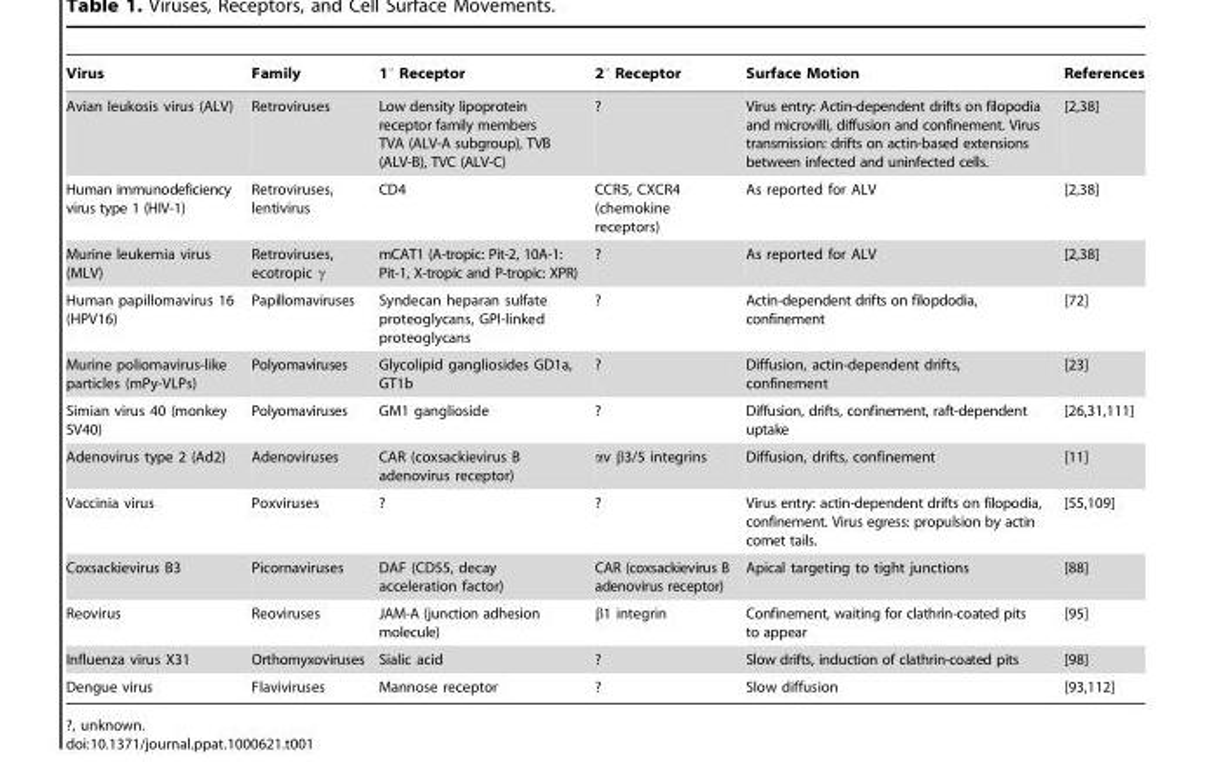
<table><thead><tr><td>Virus</td><td>Family</td><td>1° Receptor</td><td>2° Receptor</td><td>Surface Motion</td><td>References</td></tr></thead><tbody><tr><td>Avian leukosis virus (ALV)</td><td>Retroviruses</td><td>Low density lipoprotein receptor family members TVA (ALV-A subgroup), TVB (ALV-B), TVC (ALV-C)</td><td>?</td><td>Virus entry: Actin-dependent drifts on filopodia and microvilli, diffusion and confinement. Virus transmission: drifts on actin-based extensions between infected and uninfected cells.</td><td>[2,38]</td></tr><tr><td>Human immunodeficiency virus type 1 (HIV-1)</td><td>Retroviruses, lentivirus</td><td>CD4</td><td>CCR5, CXCR4 (chemokine receptors)</td><td>As reported for ALV</td><td>[2,38]</td></tr><tr><td>Murine leukemia virus (MLV)</td><td>Retroviruses, ecotropic γ</td><td>mCAT1 (A-tropic: Pit-2, 10A-1: Pit-1, X-tropic and P-tropic: XPR)</td><td>?</td><td>As reported for ALV</td><td>[2,38]</td></tr><tr><td>Human papillomavirus 16 (HPV16)</td><td>Papillomaviruses</td><td>Syndecan heparan sulfate proteoglycans, GPI-linked proteoglycans</td><td>?</td><td>Actin-dependent drifts on filopdodia, confinement</td><td>[72]</td></tr><tr><td>Murine poliomavirus-like particles (mPy-VLPs)</td><td>Polyomaviruses</td><td>Glycolipid gangliosides GD1a, GT1b</td><td>?</td><td>Diffusion, actin-dependent drifts, confinement</td><td>[23]</td></tr><tr><td>Simian virus 40 (monkey SV40)</td><td>Polyomaviruses</td><td>GM1 ganglioside</td><td>?</td><td>Diffusion, drifts, confinement, raft-dependent uptake</td><td>[26,31,111]</td></tr><tr><td>Adenovirus type 2 (Ad2)</td><td>Adenoviruses</td><td>CAR (coxsackievirus B adenovirus receptor)</td><td>αv β3/5 integrins</td><td>Diffusion, drifts, confinement</td><td>[11]</td></tr><tr><td>Vaccinia virus</td><td>Poxviruses</td><td>?</td><td>?</td><td>Virus entry: actin-dependent drifts on filopodia, confinement. Virus egress: propulsion by actin comet tails.</td><td>[55,109]</td></tr><tr><td>Coxsackievirus B3</td><td>Picornaviruses</td><td>DAF (CD55, decay acceleration factor)</td><td>CAR (coxsackievirus B adenovirus receptor)</td><td>Apical targeting to tight junctions</td><td>[88]</td></tr><tr><td>Reovirus</td><td>Reoviruses</td><td>JAM-A (junction adhesion molecule)</td><td>β1 integrin</td><td>Confinement, waiting for clathrin-coated pits to appear</td><td>[95]</td></tr><tr><td>Influenza virus X31</td><td>Orthomyxoviruses</td><td>Sialic acid</td><td>?</td><td>Slow drifts, induction of clathrin-coated pits</td><td>[98]</td></tr><tr><td>Dengue virus</td><td>Flaviviruses</td><td>Mannose receptor</td><td>?</td><td>Slow diffusion</td><td>[93,112]</td></tr></tbody></table>